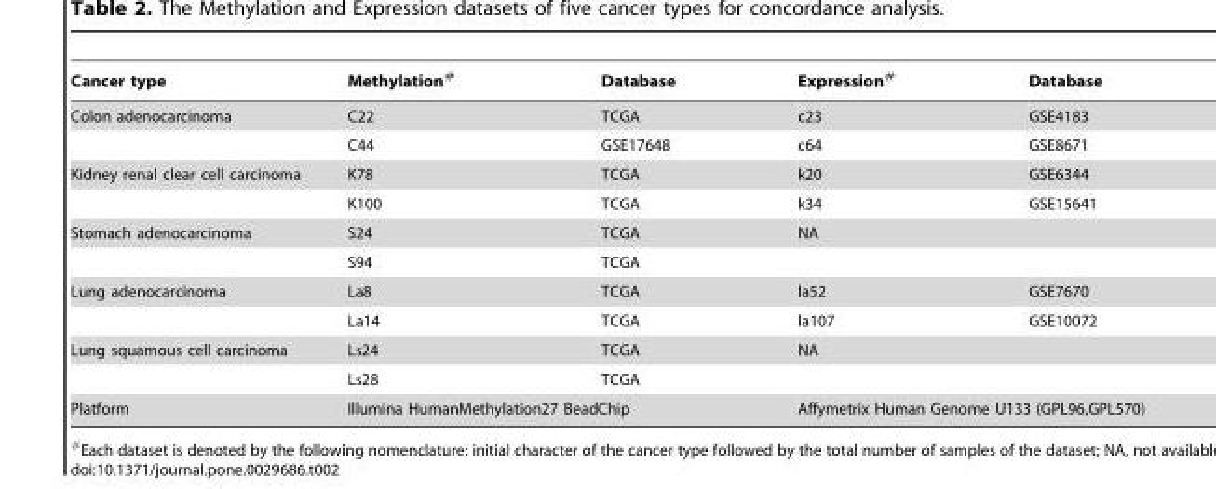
<table><thead><tr><td>Cancer type</td><td>Methylation#</td><td>Database</td><td>Expression#</td><td>Database</td></tr></thead><tbody><tr><td rowspan="2">Colon adenocarcinoma</td><td>C22</td><td>TCGA</td><td>c23</td><td>GSE4183</td></tr><tr><td>C44</td><td>GSE17648</td><td>c64</td><td>GSE8671</td></tr><tr><td rowspan="2">Kidney renal clear cell carcinoma</td><td>K78</td><td>TCGA</td><td>k20</td><td>GSE6344</td></tr><tr><td>K100</td><td>TCGA</td><td>k34</td><td>GSE15641</td></tr><tr><td rowspan="2">Stomach adenocarcinoma</td><td>S24</td><td>TCGA</td><td colspan="2">NA</td></tr><tr><td>S94</td><td>TCGA</td><td colspan="2"></td></tr><tr><td rowspan="2">Lung adenocarcinoma</td><td>La8</td><td>TCGA</td><td>la52</td><td>GSE7670</td></tr><tr><td>La14</td><td>TCGA</td><td>la107</td><td>GSE10072</td></tr><tr><td rowspan="2">Lung squamous cell carcinoma</td><td>Ls24</td><td>TCGA</td><td colspan="2">NA</td></tr><tr><td>Ls28</td><td>TCGA</td><td colspan="2"></td></tr><tr><td>Platform</td><td colspan="2">Illumina HumanMethylation27 BeadChip</td><td colspan="2">Affymetrix Human Genome U133 (GPL96,GPL570)</td></tr></tbody></table>